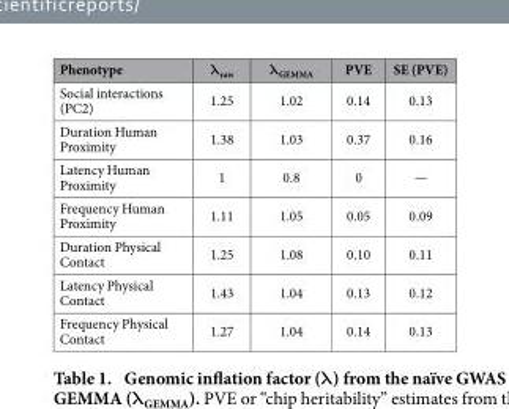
<table><thead><tr><td>Phenotype</td><td>λ<sub>raw</sub></td><td>λ<sub>GEMMA</sub></td><td>PVE</td><td>SE (PVE)</td></tr></thead><tbody><tr><td>Social interactions (PC2)</td><td>1.25</td><td>1.02</td><td>0.14</td><td>0.13</td></tr><tr><td>Duration Human Proximity</td><td>1.38</td><td>1.03</td><td>0.37</td><td>0.16</td></tr><tr><td>Latency Human Proximity</td><td>1</td><td>0.8</td><td>0</td><td>—</td></tr><tr><td>Frequency Human Proximity</td><td>1.11</td><td>1.05</td><td>0.05</td><td>0.09</td></tr><tr><td>Duration Physical Contact</td><td>1.25</td><td>1.08</td><td>0.10</td><td>0.11</td></tr><tr><td>Latency Physical Contact</td><td>1.43</td><td>1.04</td><td>0.13</td><td>0.12</td></tr><tr><td>Frequency Physical Contact</td><td>1.27</td><td>1.04</td><td>0.14</td><td>0.13</td></tr></tbody></table>